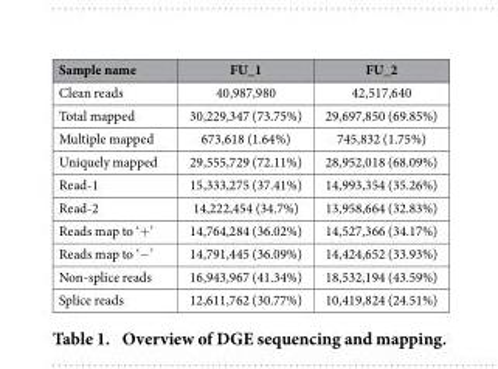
<table><thead><tr><td>Sample name</td><td>FU_1</td><td>FU_2</td></tr></thead><tbody><tr><td>Clean reads</td><td>40,987,980</td><td>42,517,640</td></tr><tr><td>Total mapped</td><td>30,229,347 (73.75%)</td><td>29,697,850 (69.85%)</td></tr><tr><td>Multiple mapped</td><td>673,618 (1.64%)</td><td>745,832 (1.75%)</td></tr><tr><td>Uniquely mapped</td><td>29,555,729 (72.11%)</td><td>28,952,018 (68.09%)</td></tr><tr><td>Read-1</td><td>15,333,275 (37.41%)</td><td>14,993,354 (35.26%)</td></tr><tr><td>Read-2</td><td>14,222,454 (34.7%)</td><td>13,958,664 (32.83%)</td></tr><tr><td>Reads map to ‘+ ’</td><td>14,764,284 (36.02%)</td><td>14,527,366 (34.17%)</td></tr><tr><td>Reads map to ‘− ’</td><td>14,791,445 (36.09%)</td><td>14,424,652 (33.93%)</td></tr><tr><td>Non-splice reads</td><td>16,943,967 (41.34%)</td><td>18,532,194 (43.59%)</td></tr><tr><td>Splice reads</td><td>12,611,762 (30.77%)</td><td>10,419,824 (24.51%)</td></tr></tbody></table>